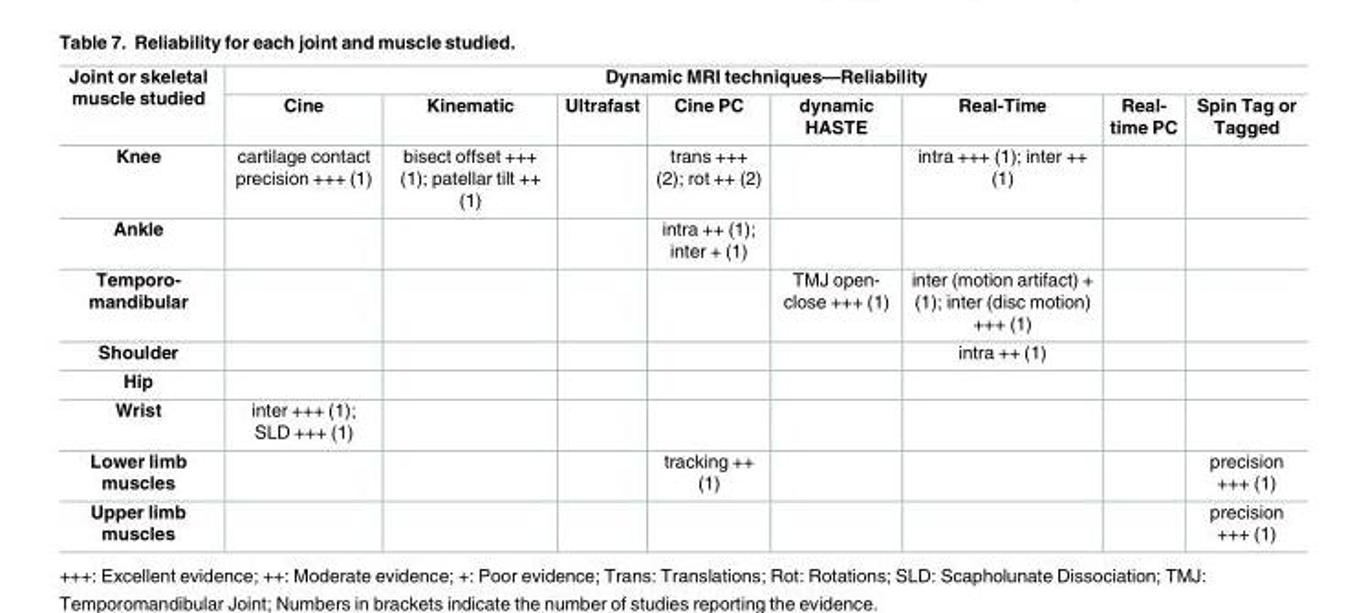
<table><thead><tr><td rowspan="2">Joint or skeletal muscle studied</td><td colspan="8">Dynamic MRI techniques—Reliability</td></tr><tr><td>Cine</td><td>Kinematic</td><td>Ultrafast</td><td>Cine PC</td><td>dynamic HASTE</td><td>Real-Time</td><td>Real- time PC</td><td>Spin Tag or Tagged</td></tr></thead><tbody><tr><td>Knee</td><td>cartilage contact precision +++ (1)</td><td>bisect offset +++ (1); patellar tilt ++ (1)</td><td></td><td>trans +++ (2); rot ++ (2)</td><td></td><td>intra +++ (1); inter ++ (1)</td><td></td><td></td></tr><tr><td>Ankle</td><td></td><td></td><td></td><td>intra ++ (1); inter + (1)</td><td></td><td></td><td></td><td></td></tr><tr><td>Temporo- mandibular</td><td></td><td></td><td></td><td></td><td>TMJ open- close +++ (1)</td><td>inter (motion artifact) + (1); inter (disc motion) +++ (1)</td><td></td><td></td></tr><tr><td>Shoulder</td><td></td><td></td><td></td><td></td><td></td><td>intra ++ (1)</td><td></td><td></td></tr><tr><td colspan="9">Hip</td></tr><tr><td>Wrist</td><td>inter +++ (1); SLD +++ (1)</td><td></td><td></td><td></td><td></td><td></td><td></td><td></td></tr><tr><td>Lower limb muscles</td><td></td><td></td><td></td><td>tracking ++ (1)</td><td></td><td></td><td></td><td>precision +++ (1)</td></tr><tr><td>Upper limb muscles</td><td></td><td></td><td></td><td></td><td></td><td></td><td></td><td>precision +++ (1)</td></tr></tbody></table>